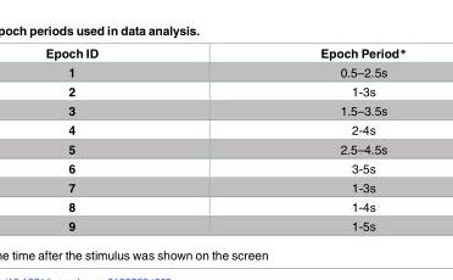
<table><thead><tr><td>Epoch ID</td><td>Epoch Period*</td></tr></thead><tbody><tr><td>1</td><td>0.5–2.5s</td></tr><tr><td>2</td><td>1-3s</td></tr><tr><td>3</td><td>1.5–3.5s</td></tr><tr><td>4</td><td>2-4s</td></tr><tr><td>5</td><td>2.5–4.5s</td></tr><tr><td>6</td><td>3-5s</td></tr><tr><td>7</td><td>1-3s</td></tr><tr><td>8</td><td>1-4s</td></tr><tr><td>9</td><td>1-5s</td></tr></tbody></table>